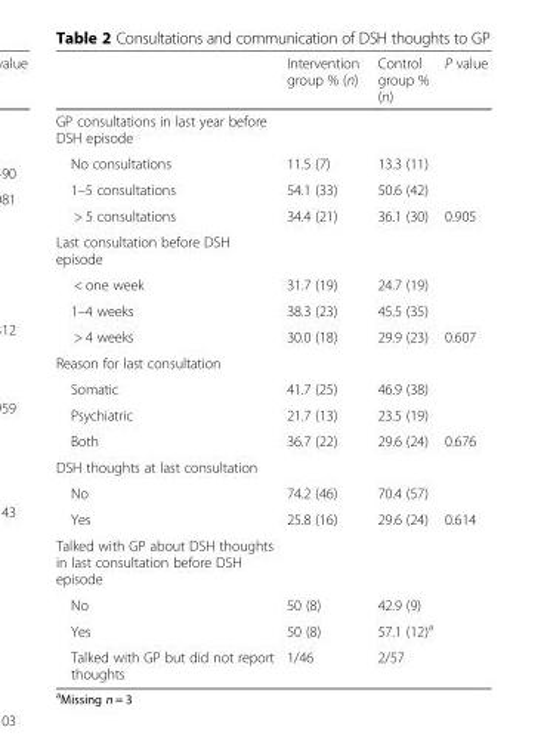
<table><thead><tr><td></td><td>Intervention group % (n)</td><td>Control group % (n)</td><td>P value</td></tr></thead><tbody><tr><td colspan="4">GP consultations in last year before DSH episode</td></tr><tr><td>No consultations</td><td>11.5 (7)</td><td>13.3 (11)</td><td></td></tr><tr><td>1–5 consultations</td><td>54.1 (33)</td><td>50.6 (42)</td><td></td></tr><tr><td>&gt; 5 consultations</td><td>34.4 (21)</td><td>36.1 (30)</td><td>0.905</td></tr><tr><td colspan="4">Last consultation before DSH episode</td></tr><tr><td>&lt; one week</td><td>31.7 (19)</td><td>24.7 (19)</td><td></td></tr><tr><td>1–4 weeks</td><td>38.3 (23)</td><td>45.5 (35)</td><td></td></tr><tr><td>&gt; 4 weeks</td><td>30.0 (18)</td><td>29.9 (23)</td><td>0.607</td></tr><tr><td colspan="4">Reason for last consultation</td></tr><tr><td>Somatic</td><td>41.7 (25)</td><td>46.9 (38)</td><td></td></tr><tr><td>Psychiatric</td><td>21.7 (13)</td><td>23.5 (19)</td><td></td></tr><tr><td>Both</td><td>36.7 (22)</td><td>29.6 (24)</td><td>0.676</td></tr><tr><td colspan="4">DSH thoughts at last consultation</td></tr><tr><td>No</td><td>74.2 (46)</td><td>70.4 (57)</td><td></td></tr><tr><td>Yes</td><td>25.8 (16)</td><td>29.6 (24)</td><td>0.614</td></tr><tr><td colspan="4">Talked with GP about DSH thoughts in last consultation before DSH episode</td></tr><tr><td>No</td><td>50 (8)</td><td>42.9 (9)</td><td></td></tr><tr><td>Yes</td><td>50 (8)</td><td>57.1 (12)<sup>a</sup></td><td></td></tr><tr><td>Talked with GP but did not report thoughts</td><td>1/46</td><td>2/57</td><td></td></tr></tbody></table>